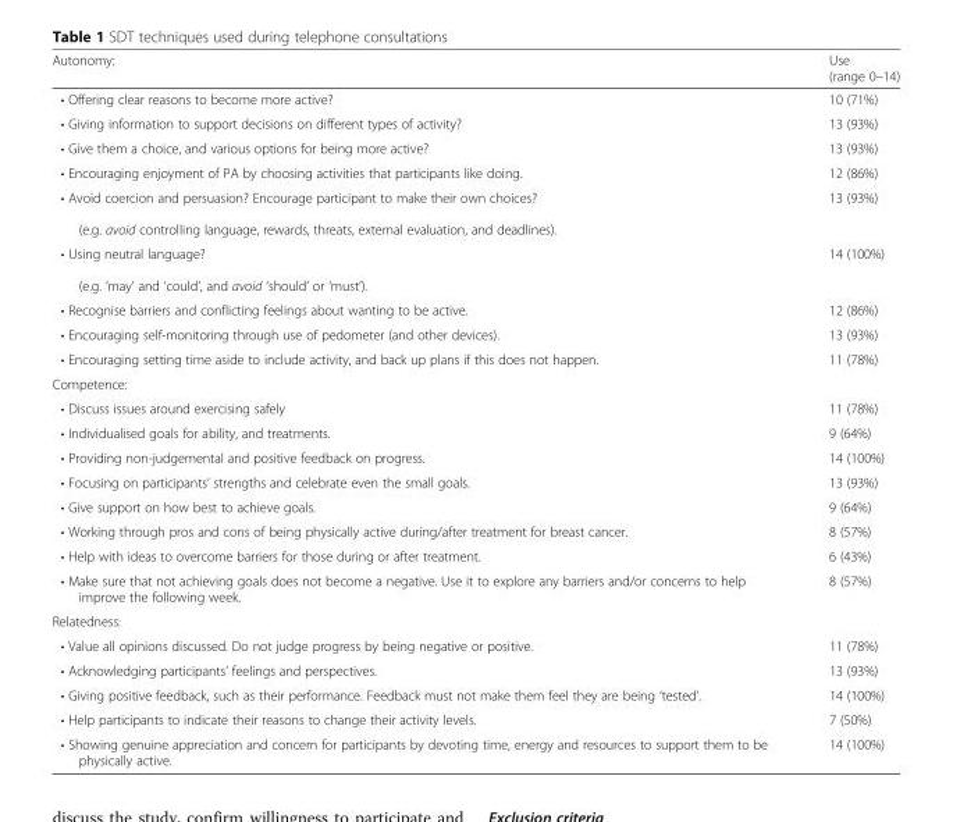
<table><thead><tr><td>Autonomy:</td><td>Use (range 0–14)</td></tr></thead><tbody><tr><td>• Offering clear reasons to become more active?</td><td>10 (71%)</td></tr><tr><td>• Giving information to support decisions on different types of activity?</td><td>13 (93%)</td></tr><tr><td>• Give them a choice, and various options for being more active?</td><td>13 (93%)</td></tr><tr><td>• Encouraging enjoyment of PA by choosing activities that participants like doing.</td><td>12 (86%)</td></tr><tr><td>• Avoid coercion and persuasion? Encourage participant to make their own choices? (e.g. avoid controlling language, rewards, threats, external evaluation, and deadlines).</td><td>13 (93%)</td></tr><tr><td>• Using neutral language? (e.g. ‘may’ and ‘could’, and avoid ‘should’ or ‘must’).</td><td>14 (100%)</td></tr><tr><td>• Recognise barriers and conflicting feelings about wanting to be active.</td><td>12 (86%)</td></tr><tr><td>• Encouraging self-monitoring through use of pedometer (and other devices).</td><td>13 (93%)</td></tr><tr><td>• Encouraging setting time aside to include activity, and back up plans if this does not happen.</td><td>11 (78%)</td></tr><tr><td colspan="2">Competence:</td></tr><tr><td>• Discuss issues around exercising safely</td><td>11 (78%)</td></tr><tr><td>• Individualised goals for ability, and treatments.</td><td>9 (64%)</td></tr><tr><td>• Providing non-judgemental and positive feedback on progress.</td><td>14 (100%)</td></tr><tr><td>• Focusing on participants’ strengths and celebrate even the small goals.</td><td>13 (93%)</td></tr><tr><td>• Give support on how best to achieve goals.</td><td>9 (64%)</td></tr><tr><td>• Working through pros and cons of being physically active during/after treatment for breast cancer.</td><td>8 (57%)</td></tr><tr><td>• Help with ideas to overcome barriers for those during or after treatment.</td><td>6 (43%)</td></tr><tr><td>• Make sure that not achieving goals does not become a negative. Use it to explore any barriers and/or concerns to help improve the following week.</td><td>8 (57%)</td></tr><tr><td colspan="2">Relatedness:</td></tr><tr><td>• Value all opinions discussed. Do not judge progress by being negative or positive.</td><td>11 (78%)</td></tr><tr><td>• Acknowledging participants’ feelings and perspectives.</td><td>13 (93%)</td></tr><tr><td>• Giving positive feedback, such as their performance. Feedback must not make them feel they are being ‘tested’.</td><td>14 (100%)</td></tr><tr><td>• Help participants to indicate their reasons to change their activity levels.</td><td>7 (50%)</td></tr><tr><td>• Showing genuine appreciation and concern for participants by devoting time, energy and resources to support them to be physically active.</td><td>14 (100%)</td></tr></tbody></table>